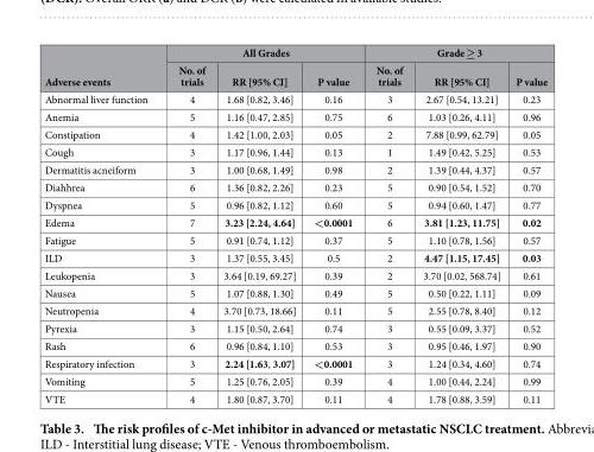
<table><thead><tr><td rowspan="2">Adverse events</td><td colspan="3">All Grades</td><td colspan="3">Grade ≥ 3</td></tr><tr><td>No. of trials</td><td>RR [95% CI]</td><td>P value</td><td>No. of trials</td><td>RR [95% CI]</td><td>P value</td></tr></thead><tbody><tr><td>Abnormal liver function</td><td>4</td><td>1.68 [0.82, 3.46]</td><td>0.16</td><td>3</td><td>2.67 [0.54, 13.21]</td><td>0.23</td></tr><tr><td>Anemia</td><td>5</td><td>1.16 [0.47, 2.85]</td><td>0.75</td><td>6</td><td>1.03 [0.26, 4.11]</td><td>0.96</td></tr><tr><td>Constipation</td><td>4</td><td>1.42 [1.00, 2.03]</td><td>0.05</td><td>2</td><td>7.88 [0.99, 62.79]</td><td>0.05</td></tr><tr><td>Cough</td><td>3</td><td>1.17 [0.96, 1.44]</td><td>0.13</td><td>1</td><td>1.49 [0.42, 5.25]</td><td>0.53</td></tr><tr><td>Dermatitis acneiform</td><td>3</td><td>1.00 [0.68, 1.49]</td><td>0.98</td><td>2</td><td>1.39 [0.44, 4.37]</td><td>0.57</td></tr><tr><td>Diahhrea</td><td>6</td><td>1.36 [0.82, 2.26]</td><td>0.23</td><td>5</td><td>0.90 [0.54, 1.52]</td><td>0.70</td></tr><tr><td>Dyspnea</td><td>5</td><td>0.96 [0.82, 1.12]</td><td>0.60</td><td>5</td><td>0.94 [0.60, 1.47]</td><td>0.77</td></tr><tr><td>Edema</td><td>7</td><td>3.23 [2.24, 4.64]</td><td>&lt;0.0001</td><td>6</td><td>3.81 [1.23, 11.75]</td><td>0.02</td></tr><tr><td>Fatigue</td><td>5</td><td>0.91 [0.74, 1.12]</td><td>0.37</td><td>5</td><td>1.10 [0.78, 1.56]</td><td>0.57</td></tr><tr><td>ILD</td><td>3</td><td>1.37 [0.55, 3.45]</td><td>0.5</td><td>2</td><td>4.47 [1.15, 17.45]</td><td>0.03</td></tr><tr><td>Leukopenia</td><td>3</td><td>3.64 [0.19, 69.27]</td><td>0.39</td><td>2</td><td>3.70 [0.02, 568.74]</td><td>0.61</td></tr><tr><td>Nausea</td><td>5</td><td>1.07 [0.88, 1.30]</td><td>0.49</td><td>5</td><td>0.50 [0.22, 1.11]</td><td>0.09</td></tr><tr><td>Neutropenia</td><td>4</td><td>3.70 [0.73, 18.66]</td><td>0.11</td><td>5</td><td>2.55 [0.78, 8.40]</td><td>0.12</td></tr><tr><td>Pyrexia</td><td>3</td><td>1.15 [0.50, 2.64]</td><td>0.74</td><td>3</td><td>0.55 [0.09, 3.37]</td><td>0.52</td></tr><tr><td>Rash</td><td>6</td><td>0.96 [0.84, 1.10]</td><td>0.53</td><td>3</td><td>0.95 [0.46, 1.97]</td><td>0.90</td></tr><tr><td>Respiratory infection</td><td>3</td><td>2.24 [1.63, 3.07]</td><td>&lt;0.0001</td><td>3</td><td>1.24 [0.34, 4.60]</td><td>0.74</td></tr><tr><td>Vomiting</td><td>5</td><td>1.25 [0.76, 2.05]</td><td>0.39</td><td>4</td><td>1.00 [0.44, 2.24]</td><td>0.99</td></tr><tr><td>VTE</td><td>4</td><td>1.80 [0.87, 3.70]</td><td>0.11</td><td>4</td><td>1.78 [0.88, 3.59]</td><td>0.11</td></tr></tbody></table>